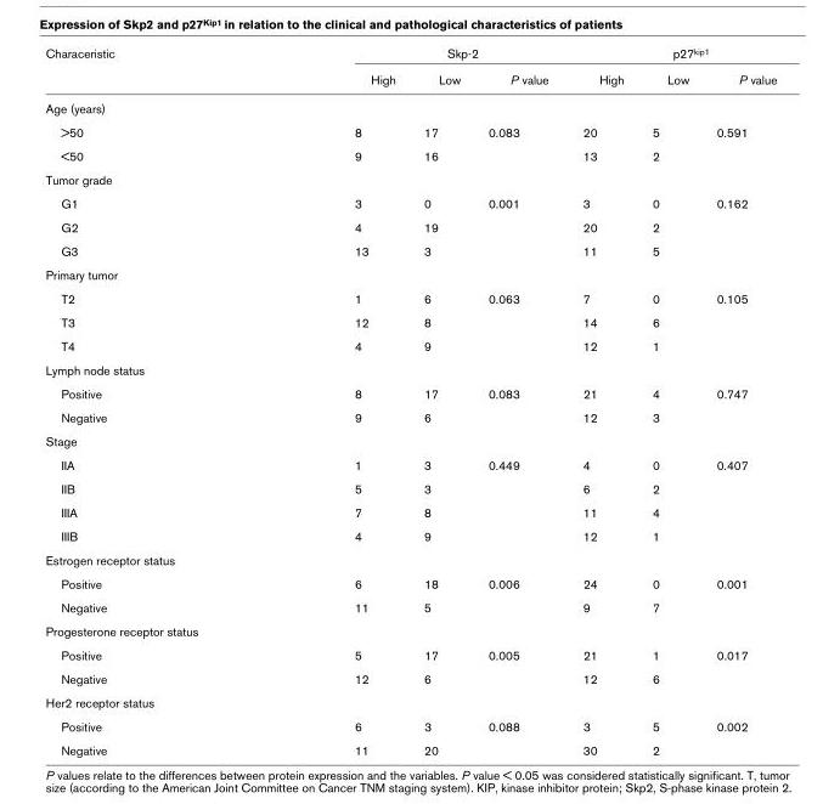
<table><thead><tr><td rowspan="2">Characeristic</td><td colspan="3">Skp-2</td><td colspan="3">p27<sup>kip1</sup></td></tr><tr><td>High</td><td>Low</td><td>P value</td><td>High</td><td>Low</td><td>P value</td></tr></thead><tbody><tr><td colspan="7">Age (years)</td></tr><tr><td>&gt;50</td><td>8</td><td>17</td><td>0.083</td><td>20</td><td>5</td><td>0.591</td></tr><tr><td>&lt;50</td><td>9</td><td>16</td><td></td><td>13</td><td>2</td><td></td></tr><tr><td colspan="7">Tumor grade</td></tr><tr><td>G1</td><td>3</td><td>0</td><td>0.001</td><td>3</td><td>0</td><td>0.162</td></tr><tr><td>G2</td><td>4</td><td>19</td><td></td><td>20</td><td>2</td><td></td></tr><tr><td>G3</td><td>13</td><td>3</td><td></td><td>11</td><td>5</td><td></td></tr><tr><td colspan="7">Primary tumor</td></tr><tr><td>T2</td><td>1</td><td>6</td><td>0.063</td><td>7</td><td>0</td><td>0.105</td></tr><tr><td>T3</td><td>12</td><td>8</td><td></td><td>14</td><td>6</td><td></td></tr><tr><td>T4</td><td>4</td><td>9</td><td></td><td>12</td><td>1</td><td></td></tr><tr><td colspan="7">Lymph node status</td></tr><tr><td>Positive</td><td>8</td><td>17</td><td>0.083</td><td>21</td><td>4</td><td>0.747</td></tr><tr><td>Negative</td><td>9</td><td>6</td><td></td><td>12</td><td>3</td><td></td></tr><tr><td colspan="7">Stage</td></tr><tr><td>IIA</td><td>1</td><td>3</td><td>0.449</td><td>4</td><td>0</td><td>0.407</td></tr><tr><td>IIB</td><td>5</td><td>3</td><td></td><td>6</td><td>2</td><td></td></tr><tr><td>IIIA</td><td>7</td><td>8</td><td></td><td>11</td><td>4</td><td></td></tr><tr><td>IIIB</td><td>4</td><td>9</td><td></td><td>12</td><td>1</td><td></td></tr><tr><td colspan="7">Estrogen receptor status</td></tr><tr><td>Positive</td><td>6</td><td>18</td><td>0.006</td><td>24</td><td>0</td><td>0.001</td></tr><tr><td>Negative</td><td>11</td><td>5</td><td></td><td>9</td><td>7</td><td></td></tr><tr><td colspan="7">Progesterone receptor status</td></tr><tr><td>Positive</td><td>5</td><td>17</td><td>0.005</td><td>21</td><td>1</td><td>0.017</td></tr><tr><td>Negative</td><td>12</td><td>6</td><td></td><td>12</td><td>6</td><td></td></tr><tr><td colspan="7">Her2 receptor status</td></tr><tr><td>Positive</td><td>6</td><td>3</td><td>0.088</td><td>3</td><td>5</td><td>0.002</td></tr><tr><td>Negative</td><td>11</td><td>20</td><td></td><td>30</td><td>2</td><td></td></tr></tbody></table>